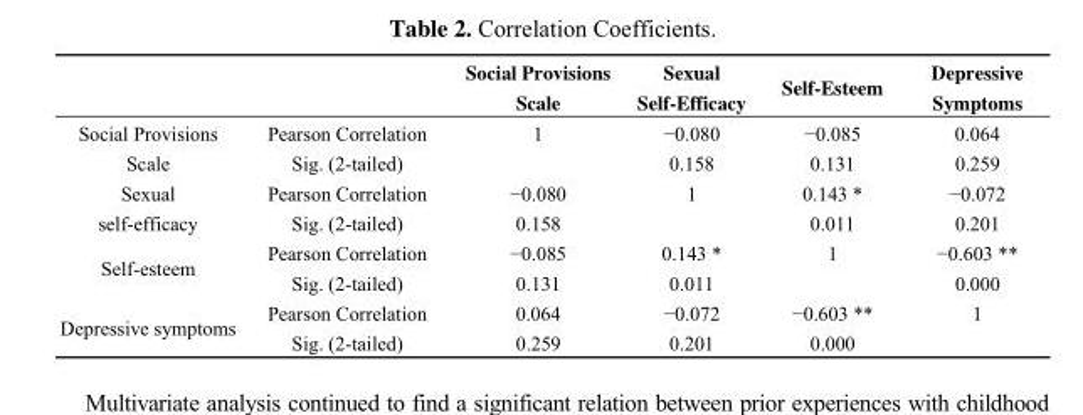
<table><thead><tr><td></td><td></td><td>Social Provisions Scale</td><td>Sexual Self-Efficacy</td><td>Self-Esteem</td><td>Depressive Symptoms</td></tr></thead><tbody><tr><td rowspan="2">Social Provisions Scale</td><td>Pearson Correlation</td><td>1</td><td>−0.080</td><td>−0.085</td><td>0.064</td></tr><tr><td>Sig. (2-tailed)</td><td></td><td>0.158</td><td>0.131</td><td>0.259</td></tr><tr><td rowspan="2">Sexual self-efficacy</td><td>Pearson Correlation</td><td>−0.080</td><td>1</td><td>0.143 *</td><td>−0.072</td></tr><tr><td>Sig. (2-tailed)</td><td>0.158</td><td></td><td>0.011</td><td>0.201</td></tr><tr><td rowspan="2">Self-esteem</td><td>Pearson Correlation</td><td>−0.085</td><td>0.143 *</td><td>1</td><td>−0.603 **</td></tr><tr><td>Sig. (2-tailed)</td><td>0.131</td><td>0.011</td><td></td><td>0.000</td></tr><tr><td rowspan="2">Depressive symptoms</td><td>Pearson Correlation</td><td>0.064</td><td>−0.072</td><td>−0.603 **</td><td>1</td></tr><tr><td>Sig. (2-tailed)</td><td>0.259</td><td>0.201</td><td>0.000</td><td></td></tr></tbody></table>